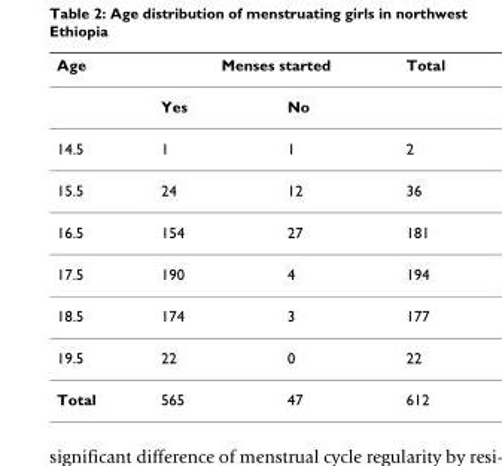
<table><thead><tr><td rowspan="2">Age</td><td colspan="2">Menses started</td><td rowspan="2">Total</td></tr><tr><td>Yes</td><td>No</td></tr></thead><tbody><tr><td>14.5</td><td>1</td><td>1</td><td>2</td></tr><tr><td>15.5</td><td>24</td><td>12</td><td>36</td></tr><tr><td>16.5</td><td>154</td><td>27</td><td>181</td></tr><tr><td>17.5</td><td>190</td><td>4</td><td>194</td></tr><tr><td>18.5</td><td>174</td><td>3</td><td>177</td></tr><tr><td>19.5</td><td>22</td><td>0</td><td>22</td></tr><tr><td>Total</td><td>565</td><td>47</td><td>612</td></tr></tbody></table>